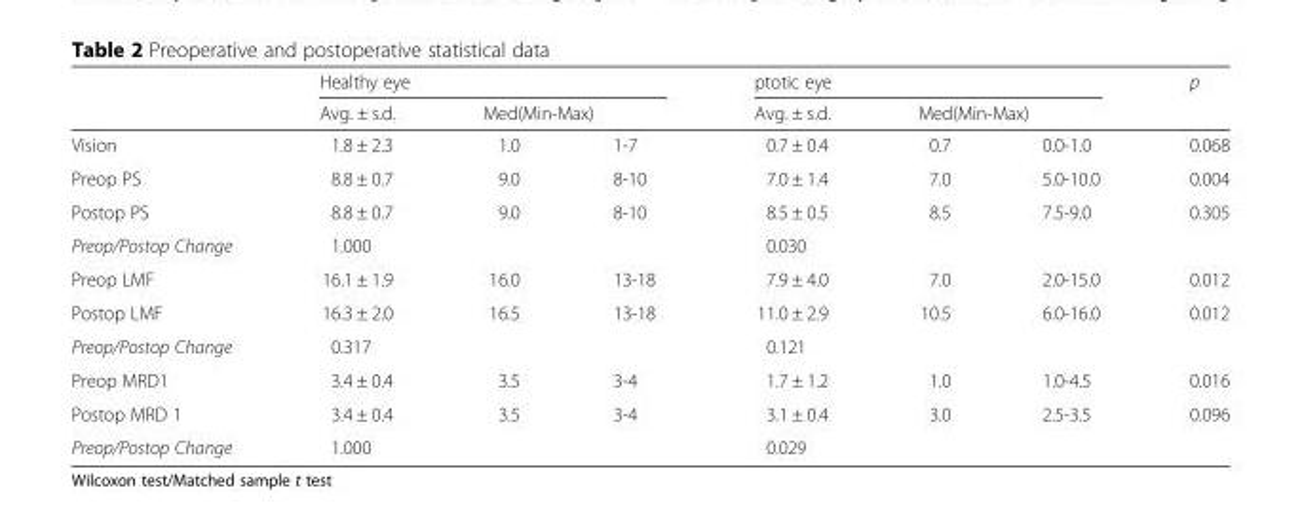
<table><thead><tr><td rowspan="3">Vision</td><td colspan="3">Healthy eye</td><td colspan="3">ptotic eye</td><td rowspan="3">p 0.068</td></tr><tr><td rowspan="2">Avg. ± s.d. 1.8 ± 2.3</td><td colspan="2">Med(Min-Max)</td><td rowspan="2">Avg. ± s.d. 0.7 ± 0.4</td><td colspan="2">Med(Min-Max)</td></tr><tr><td>1.0</td><td>1-7</td><td>0.7</td><td>0.0-1.0</td></tr></thead><tbody><tr><td>Preop PS</td><td>8.8 ± 0.7</td><td>9.0</td><td>8-10</td><td>7.0 ± 1.4</td><td>7.0</td><td>5.0-10.0</td><td>0.004</td></tr><tr><td>Postop PS</td><td>8.8 ± 0.7</td><td>9.0</td><td>8-10</td><td>8.5 ± 0.5</td><td>8.5</td><td>7.5-9.0</td><td>0.305</td></tr><tr><td>Preop/Postop Change</td><td colspan="3">1.000</td><td colspan="3">0.030</td><td></td></tr><tr><td>Preop LMF</td><td>16.1 ± 1.9</td><td>16.0</td><td>13-18</td><td>7.9 ± 4.0</td><td>7.0</td><td>2.0-15.0</td><td>0.012</td></tr><tr><td>Postop LMF</td><td>16.3 ± 2.0</td><td>16.5</td><td>13-18</td><td>11.0 ± 2.9</td><td>10.5</td><td>6.0-16.0</td><td>0.012</td></tr><tr><td>Preop/Postop Change</td><td colspan="3">0.317</td><td colspan="3">0.121</td><td></td></tr><tr><td>Preop MRD1</td><td>3.4 ± 0.4</td><td>3.5</td><td>3-4</td><td>1.7 ± 1.2</td><td>1.0</td><td>1.0-4.5</td><td>0.016</td></tr><tr><td>Postop MRD 1</td><td>3.4 ± 0.4</td><td>3.5</td><td>3-4</td><td>3.1 ± 0.4</td><td>3.0</td><td>2.5-3.5</td><td>0.096</td></tr><tr><td>Preop/Postop Change</td><td colspan="3">1.000</td><td colspan="3">0.029</td><td></td></tr></tbody></table>